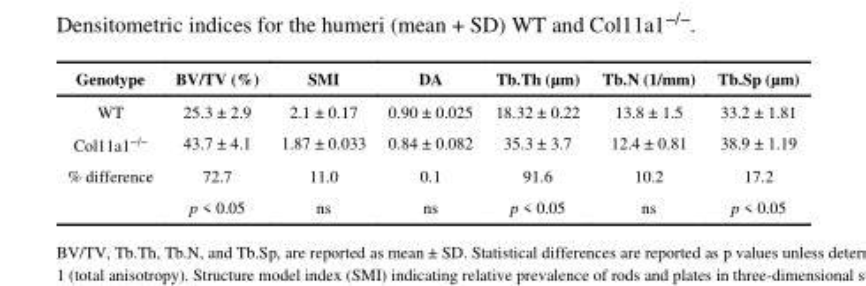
<table><thead><tr><td>Genotype</td><td>BV/TV (%)</td><td>SMI</td><td>DA</td><td>Tb.Th (μm)</td><td>Tb.N (1/mm)</td><td>Tb.Sp (μm)</td></tr></thead><tbody><tr><td>WT</td><td>25.3 ± 2.9</td><td>2.1 ± 0.17</td><td>0.90 ± 0.025</td><td>18.32 ± 0.22</td><td>13.8 ± 1.5</td><td>33.2 ± 1.81</td></tr><tr><td>Col11a1<sup>−/−</sup></td><td>43.7 ± 4.1</td><td>1.87 ± 0.033</td><td>0.84 ± 0.082</td><td>35.3 ± 3.7</td><td>12.4 ± 0.81</td><td>38.9 ± 1.19</td></tr><tr><td rowspan="2">% difference</td><td>72.7</td><td>11.0</td><td>0.1</td><td>91.6</td><td>10.2</td><td>17.2</td></tr><tr><td>p &lt; 0.05</td><td>ns</td><td>ns</td><td>p &lt; 0.05</td><td>ns</td><td>p &lt; 0.05</td></tr></tbody></table>